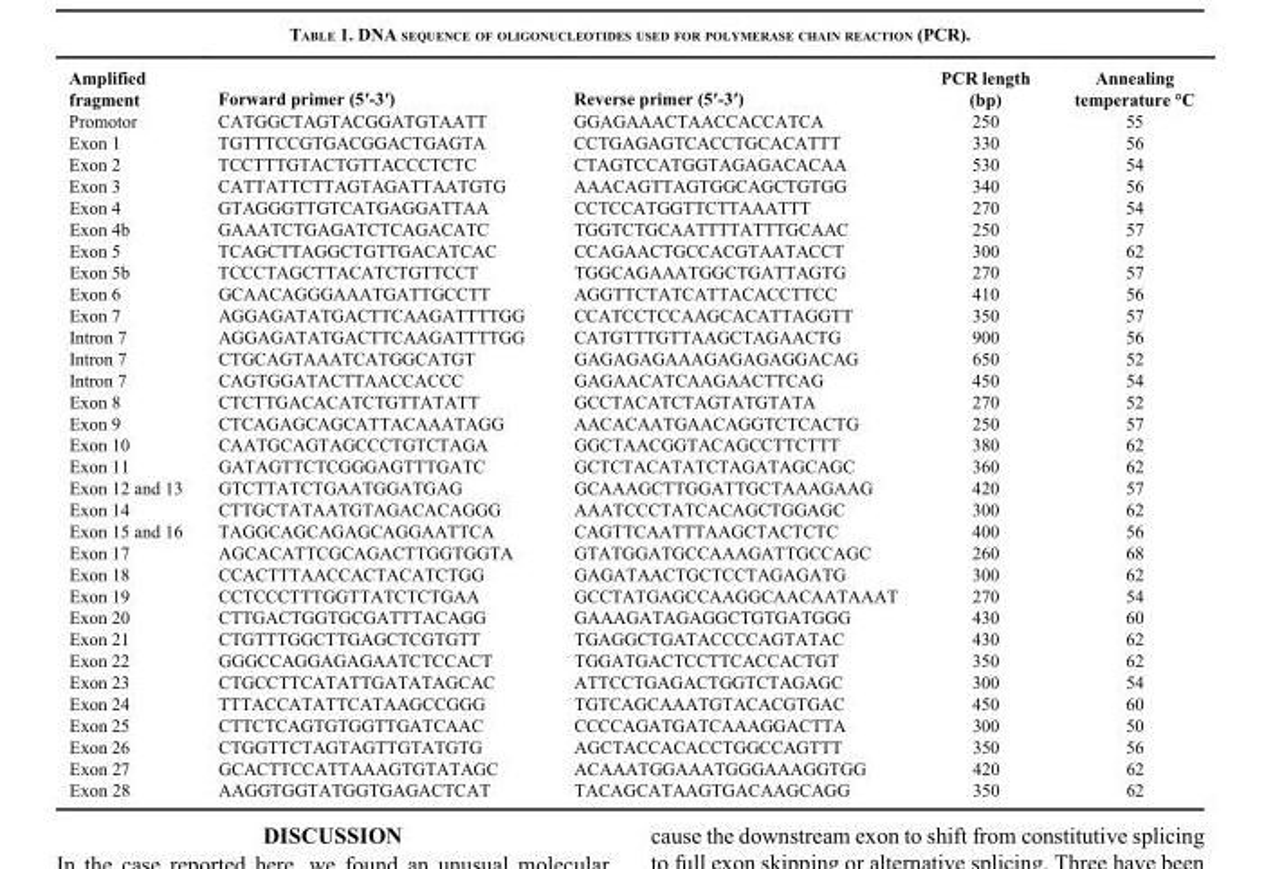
<table><thead><tr><td>Amplified fragment</td><td>Forward primer (5′-3′)</td><td>Reverse primer (5′-3′)</td><td>PCR length (bp)</td><td>Annealing temperature °C</td></tr></thead><tbody><tr><td>Promotor</td><td>CATGGCTAGTACGGATGTAATT</td><td>GGAGAAACTAACCACCATCA</td><td>250</td><td>55</td></tr><tr><td>Exon 1</td><td>TGTTTCCGTGACGGACTGAGTA</td><td>CCTGAGAGTCACCTGCACATTT</td><td>330</td><td>56</td></tr><tr><td>Exon 2</td><td>TCCTTTGTACTGTTACCCTCTC</td><td>CTAGTCCATGGTAGAGACACAA</td><td>530</td><td>54</td></tr><tr><td>Exon 3</td><td>CATTATTCTTAGTAGATTAATGTG</td><td>AAACAGTTAGTGGCAGCTGTGG</td><td>340</td><td>56</td></tr><tr><td>Exon 4</td><td>GTAGGGTTGTCATGAGGATTAA</td><td>CCTCCATGGTTCTTAAATTT</td><td>270</td><td>54</td></tr><tr><td>Exon 4b</td><td>GAAATCTGAGATCTCAGACATC</td><td>TGGTCTGCAATTTTATTTGCAAC</td><td>250</td><td>57</td></tr><tr><td>Exon 5</td><td>TCAGCTTAGGCTGTTGACATCAC</td><td>CCAGAACTGCCACGTAATACCT</td><td>300</td><td>62</td></tr><tr><td>Exon 5b</td><td>TCCCTAGCTTACATCTGTTCCT</td><td>TGGCAGAAATGGCTGATTAGTG</td><td>270</td><td>57</td></tr><tr><td>Exon 6</td><td>GCAACAGGGAAATGATTGCCTT</td><td>AGGTTCTATCATTACACCTTCC</td><td>410</td><td>56</td></tr><tr><td>Exon 7</td><td>AGGAGATATGACTTCAAGATTTTGG</td><td>CCATCCTCCAAGCACATTAGGTT</td><td>350</td><td>57</td></tr><tr><td>Intron 7</td><td>AGGAGATATGACTTCAAGATTTTGG</td><td>CATGTTTGTTAAGCTAGAACTG</td><td>900</td><td>56</td></tr><tr><td>Intron 7</td><td>CTGCAGTAAATCATGGCATGT</td><td>GAGAGAGAAAGAGAGAGGACAG</td><td>650</td><td>52</td></tr><tr><td>Intron 7</td><td>CAGTGGATACTTAACCACCC</td><td>GAGAACATCAAGAACTTCAG</td><td>450</td><td>54</td></tr><tr><td>Exon 8</td><td>CTCTTGACACATCTGTTATATT</td><td>GCCTACATCTAGTATGTATA</td><td>270</td><td>52</td></tr><tr><td>Exon 9</td><td>CTCAGAGCAGCATTACAAATAGG</td><td>AACACAATGAACAGGTCTCACTG</td><td>250</td><td>57</td></tr><tr><td>Exon 10</td><td>CAATGCAGTAGCCCTGTCTAGA</td><td>GGCTAACGGTACAGCCTTCTTT</td><td>380</td><td>62</td></tr><tr><td>Exon 11</td><td>GATAGTTCTCGGGAGTTTGATC</td><td>GCTCTACATATCTAGATAGCAGC</td><td>360</td><td>62</td></tr><tr><td>Exon 12 and 13</td><td>GTCTTATCTGAATGGATGAG</td><td>GCAAAGCTTGGATTGCTAAAGAAG</td><td>420</td><td>57</td></tr><tr><td>Exon 14</td><td>CTTGCTATAATGTAGACACAGGG</td><td>AAATCCCTATCACAGCTGGAGC</td><td>300</td><td>62</td></tr><tr><td>Exon 15 and 16</td><td>TAGGCAGCAGAGCAGGAATTCA</td><td>CAGTTCAATTTAAGCTACTCTC</td><td>400</td><td>56</td></tr><tr><td>Exon 17</td><td>AGCACATTCGCAGACTTGGTGGTA</td><td>GTATGGATGCCAAAGATTGCCAGC</td><td>260</td><td>68</td></tr><tr><td>Exon 18</td><td>CCACTTTAACCACTACATCTGG</td><td>GAGATAACTGCTCCTAGAGATG</td><td>300</td><td>62</td></tr><tr><td>Exon 19</td><td>CCTCCCTTTGGTTATCTCTGAA</td><td>GCCTATGAGCCAAGGCAACAATAAAT</td><td>270</td><td>54</td></tr><tr><td>Exon 20</td><td>CTTGACTGGTGCGATTTACAGG</td><td>GAAAGATAGAGGCTGTGATGGG</td><td>430</td><td>60</td></tr><tr><td>Exon 21</td><td>CTGTTTGGCTTGAGCTCGTGTT</td><td>TGAGGCTGATACCCCAGTATAC</td><td>430</td><td>62</td></tr><tr><td>Exon 22</td><td>GGGCCAGGAGAGAATCTCCACT</td><td>TGGATGACTCCTTCACCACTGT</td><td>350</td><td>62</td></tr><tr><td>Exon 23</td><td>CTGCCTTCATATTGATATAGCAC</td><td>ATTCCTGAGACTGGTCTAGAGC</td><td>300</td><td>54</td></tr><tr><td>Exon 24</td><td>TTTACCATATTCATAAGCCGGG</td><td>TGTCAGCAAATGTACACGTGAC</td><td>450</td><td>60</td></tr><tr><td>Exon 25</td><td>CTTCTCAGTGTGGTTGATCAAC</td><td>CCCCAGATGATCAAAGGACTTA</td><td>300</td><td>50</td></tr><tr><td>Exon 26</td><td>CTGGTTCTAGTAGTTGTATGTG</td><td>AGCTACCACACCTGGCCAGTTT</td><td>350</td><td>56</td></tr><tr><td>Exon 27</td><td>GCACTTCCATTAAAGTGTATAGC</td><td>ACAAATGGAAATGGGAAAGGTGG</td><td>420</td><td>62</td></tr><tr><td>Exon 28</td><td>AAGGTGGTATGGTGAGACTCAT</td><td>TACAGCATAAGTGACAAGCAGG</td><td>350</td><td>62</td></tr></tbody></table>